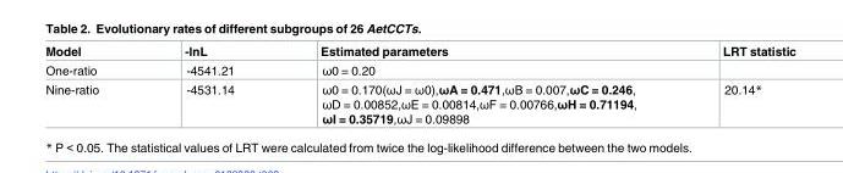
<table><thead><tr><td>Model</td><td>-lnL</td><td>Estimated parameters</td><td>LRT statistic</td></tr></thead><tbody><tr><td>One-ratio</td><td>-4541.21</td><td>ω0 = 0.20</td><td></td></tr><tr><td>Nine-ratio</td><td>-4531.14</td><td>ω0 = 0.170(ωJ = ω0),ωA = 0.471,ωB = 0.007,ωC = 0.246, ωD = 0.00852,ωE = 0.00814,ωF = 0.00766,ωH = 0.71194, ωI = 0.35719,ωJ = 0.09898</td><td>20.14*</td></tr></tbody></table>